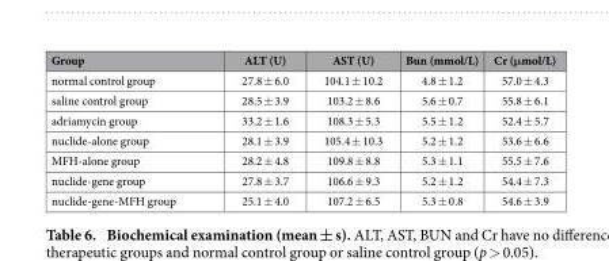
<table><thead><tr><td>Group</td><td>ALT (U)</td><td>AST (U)</td><td>Bun (mmol/L)</td><td>Cr (μmol/L)</td></tr></thead><tbody><tr><td>normal control group</td><td>27.8 ± 6.0</td><td>104.1 ± 10.2</td><td>4.8 ± 1.2</td><td>57.0 ± 4.3</td></tr><tr><td>saline control group</td><td>28.5 ± 3.9</td><td>103.2 ± 8.6</td><td>5.6 ± 0.7</td><td>55.8 ± 6.1</td></tr><tr><td>adriamycin group</td><td>33.2 ± 1.6</td><td>108.3 ± 5.3</td><td>5.5 ± 1.2</td><td>52.4 ± 5.7</td></tr><tr><td>nuclide-alone group</td><td>28.1 ± 3.9</td><td>105.4 ± 10.3</td><td>5.2 ± 1.2</td><td>53.6 ± 6.6</td></tr><tr><td>MFH-alone group</td><td>28.2 ± 4.8</td><td>109.8 ± 8.8</td><td>5.3 ± 1.1</td><td>55.5 ± 7.6</td></tr><tr><td>nuclide-gene group</td><td>27.8 ± 3.7</td><td>106.6 ± 9.3</td><td>5.2 ± 1.2</td><td>54.4 ± 7.3</td></tr><tr><td>nuclide-gene-MFH group</td><td>25.1 ± 4.0</td><td>107.2 ± 6.5</td><td>5.3 ± 0.8</td><td>54.6 ± 3.9</td></tr></tbody></table>